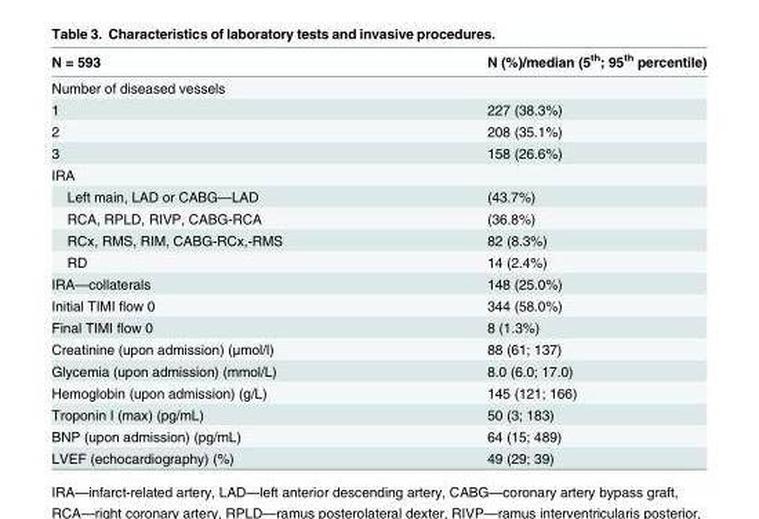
<table><thead><tr><td>N = 593</td><td>N (%)/median (5<sup>th</sup>; 95<sup>th</sup> percentile)</td></tr></thead><tbody><tr><td colspan="2">Number of diseased vessels</td></tr><tr><td>1</td><td>227 (38.3%)</td></tr><tr><td>2</td><td>208 (35.1%)</td></tr><tr><td>3</td><td>158 (26.6%)</td></tr><tr><td colspan="2">IRA</td></tr><tr><td>Left main, LAD or CABG—LAD</td><td>(43.7%)</td></tr><tr><td>RCA, RPLD, RIVP, CABG-RCA</td><td>(36.8%)</td></tr><tr><td>RCx, RMS, RIM, CABG-RCx,-RMS</td><td>82 (8.3%)</td></tr><tr><td>RD</td><td>14 (2.4%)</td></tr><tr><td>IRA—collaterals</td><td>148 (25.0%)</td></tr><tr><td>Initial TIMI flow 0</td><td>344 (58.0%)</td></tr><tr><td>Final TIMI flow 0</td><td>8 (1.3%)</td></tr><tr><td>Creatinine (upon admission) (μmol/l)</td><td>88 (61; 137)</td></tr><tr><td>Glycemia (upon admission) (mmol/L)</td><td>8.0 (6.0; 17.0)</td></tr><tr><td>Hemoglobin (upon admission) (g/L)</td><td>145 (121; 166)</td></tr><tr><td>Troponin I (max) (pg/mL)</td><td>50 (3; 183)</td></tr><tr><td>BNP (upon admission) (pg/mL)</td><td>64 (15; 489)</td></tr><tr><td>LVEF (echocardiography) (%)</td><td>49 (29; 39)</td></tr></tbody></table>